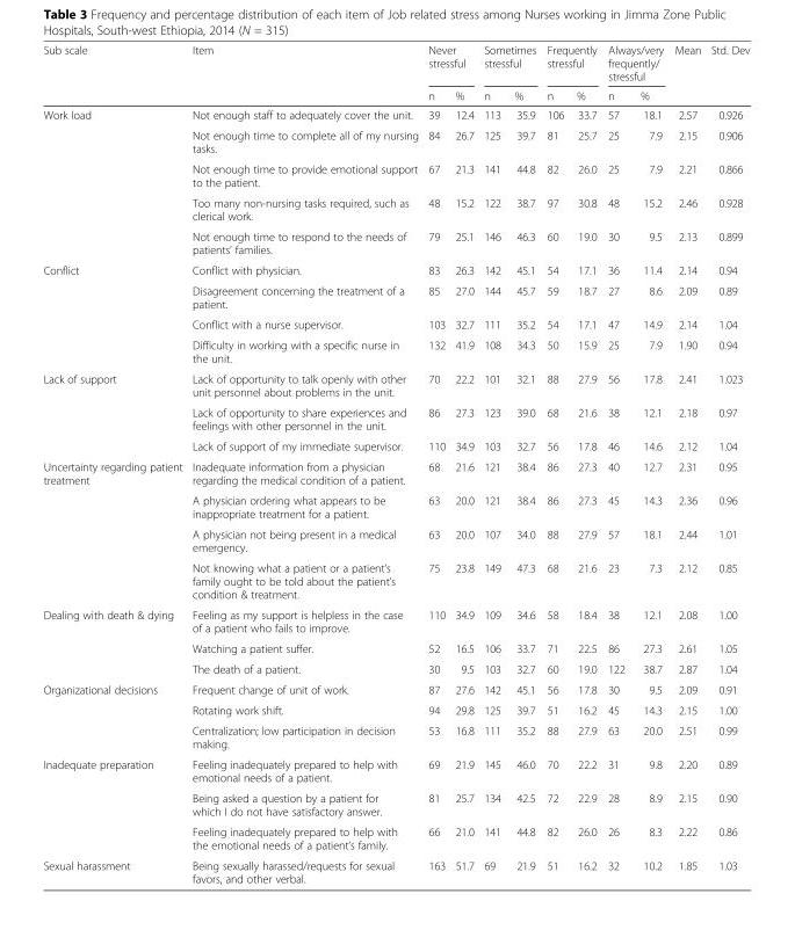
<table><thead><tr><td rowspan="2">Sub scale</td><td rowspan="2">Item</td><td colspan="2">Never stressful</td><td colspan="2">Sometimes stressful</td><td colspan="2">Frequently stressful</td><td colspan="2">Always/very frequently/ stressful</td><td rowspan="2">Mean</td><td rowspan="2">Std. Dev</td></tr><tr><td>n</td><td>%</td><td>n</td><td>%</td><td>n</td><td>%</td><td>n</td><td>%</td></tr></thead><tbody><tr><td rowspan="5">Work load</td><td>Not enough staff to adequately cover the unit.</td><td>39</td><td>12.4</td><td>113</td><td>35.9</td><td>106</td><td>33.7</td><td>57</td><td>18.1</td><td>2.57</td><td>0.926</td></tr><tr><td>Not enough time to complete all of my nursing tasks.</td><td>84</td><td>26.7</td><td>125</td><td>39.7</td><td>81</td><td>25.7</td><td>25</td><td>7.9</td><td>2.15</td><td>0.906</td></tr><tr><td>Not enough time to provide emotional support to the patient.</td><td>67</td><td>21.3</td><td>141</td><td>44.8</td><td>82</td><td>26.0</td><td>25</td><td>7.9</td><td>2.21</td><td>0.866</td></tr><tr><td>Too many non-nursing tasks required, such as clerical work.</td><td>48</td><td>15.2</td><td>122</td><td>38.7</td><td>97</td><td>30.8</td><td>48</td><td>15.2</td><td>2.46</td><td>0.928</td></tr><tr><td>Not enough time to respond to the needs of patients’ families.</td><td>79</td><td>25.1</td><td>146</td><td>46.3</td><td>60</td><td>19.0</td><td>30</td><td>9.5</td><td>2.13</td><td>0.899</td></tr><tr><td rowspan="4">Conflict</td><td>Conflict with physician.</td><td>83</td><td>26.3</td><td>142</td><td>45.1</td><td>54</td><td>17.1</td><td>36</td><td>11.4</td><td>2.14</td><td>0.94</td></tr><tr><td>Disagreement concerning the treatment of a patient.</td><td>85</td><td>27.0</td><td>144</td><td>45.7</td><td>59</td><td>18.7</td><td>27</td><td>8.6</td><td>2.09</td><td>0.89</td></tr><tr><td>Conflict with a nurse supervisor.</td><td>103</td><td>32.7</td><td>111</td><td>35.2</td><td>54</td><td>17.1</td><td>47</td><td>14.9</td><td>2.14</td><td>1.04</td></tr><tr><td>Difficulty in working with a specific nurse in the unit.</td><td>132</td><td>41.9</td><td>108</td><td>34.3</td><td>50</td><td>15.9</td><td>25</td><td>7.9</td><td>1.90</td><td>0.94</td></tr><tr><td rowspan="3">Lack of support</td><td>Lack of opportunity to talk openly with other unit personnel about problems in the unit.</td><td>70</td><td>22.2</td><td>101</td><td>32.1</td><td>88</td><td>27.9</td><td>56</td><td>17.8</td><td>2.41</td><td>1.023</td></tr><tr><td>Lack of opportunity to share experiences and feelings with other personnel in the unit.</td><td>86</td><td>27.3</td><td>123</td><td>39.0</td><td>68</td><td>21.6</td><td>38</td><td>12.1</td><td>2.18</td><td>0.97</td></tr><tr><td>Lack of support of my immediate supervisor.</td><td>110</td><td>34.9</td><td>103</td><td>32.7</td><td>56</td><td>17.8</td><td>46</td><td>14.6</td><td>2.12</td><td>1.04</td></tr><tr><td rowspan="4">Uncertainty regarding patient treatment</td><td>Inadequate information from a physician regarding the medical condition of a patient.</td><td>68</td><td>21.6</td><td>121</td><td>38.4</td><td>86</td><td>27.3</td><td>40</td><td>12.7</td><td>2.31</td><td>0.95</td></tr><tr><td>A physician ordering what appears to be inappropriate treatment for a patient.</td><td>63</td><td>20.0</td><td>121</td><td>38.4</td><td>86</td><td>27.3</td><td>45</td><td>14.3</td><td>2.36</td><td>0.96</td></tr><tr><td>A physician not being present in a medical emergency.</td><td>63</td><td>20.0</td><td>107</td><td>34.0</td><td>88</td><td>27.9</td><td>57</td><td>18.1</td><td>2.44</td><td>1.01</td></tr><tr><td>Not knowing what a patient or a patient’s family ought to be told about the patient’s condition &amp; treatment.</td><td>75</td><td>23.8</td><td>149</td><td>47.3</td><td>68</td><td>21.6</td><td>23</td><td>7.3</td><td>2.12</td><td>0.85</td></tr><tr><td rowspan="3">Dealing with death &amp; dying</td><td>Feeling as my support is helpless in the case of a patient who fails to improve.</td><td>110</td><td>34.9</td><td>109</td><td>34.6</td><td>58</td><td>18.4</td><td>38</td><td>12.1</td><td>2.08</td><td>1.00</td></tr><tr><td>Watching a patient suffer.</td><td>52</td><td>16.5</td><td>106</td><td>33.7</td><td>71</td><td>22.5</td><td>86</td><td>27.3</td><td>2.61</td><td>1.05</td></tr><tr><td>The death of a patient.</td><td>30</td><td>9.5</td><td>103</td><td>32.7</td><td>60</td><td>19.0</td><td>122</td><td>38.7</td><td>2.87</td><td>1.04</td></tr><tr><td rowspan="3">Organizational decisions</td><td>Frequent change of unit of work.</td><td>87</td><td>27.6</td><td>142</td><td>45.1</td><td>56</td><td>17.8</td><td>30</td><td>9.5</td><td>2.09</td><td>0.91</td></tr><tr><td>Rotating work shift.</td><td>94</td><td>29.8</td><td>125</td><td>39.7</td><td>51</td><td>16.2</td><td>45</td><td>14.3</td><td>2.15</td><td>1.00</td></tr><tr><td>Centralization; low participation in decision making.</td><td>53</td><td>16.8</td><td>111</td><td>35.2</td><td>88</td><td>27.9</td><td>63</td><td>20.0</td><td>2.51</td><td>0.99</td></tr><tr><td rowspan="3">Inadequate preparation</td><td>Feeling inadequately prepared to help with emotional needs of a patient.</td><td>69</td><td>21.9</td><td>145</td><td>46.0</td><td>70</td><td>22.2</td><td>31</td><td>9.8</td><td>2.20</td><td>0.89</td></tr><tr><td>Being asked a question by a patient for which I do not have satisfactory answer.</td><td>81</td><td>25.7</td><td>134</td><td>42.5</td><td>72</td><td>22.9</td><td>28</td><td>8.9</td><td>2.15</td><td>0.90</td></tr><tr><td>Feeling inadequately prepared to help with the emotional needs of a patient’s family.</td><td>66</td><td>21.0</td><td>141</td><td>44.8</td><td>82</td><td>26.0</td><td>26</td><td>8.3</td><td>2.22</td><td>0.86</td></tr><tr><td>Sexual harassment</td><td>Being sexually harassed/requests for sexual favors, and other verbal.</td><td>163</td><td>51.7</td><td>69</td><td>21.9</td><td>51</td><td>16.2</td><td>32</td><td>10.2</td><td>1.85</td><td>1.03</td></tr></tbody></table>